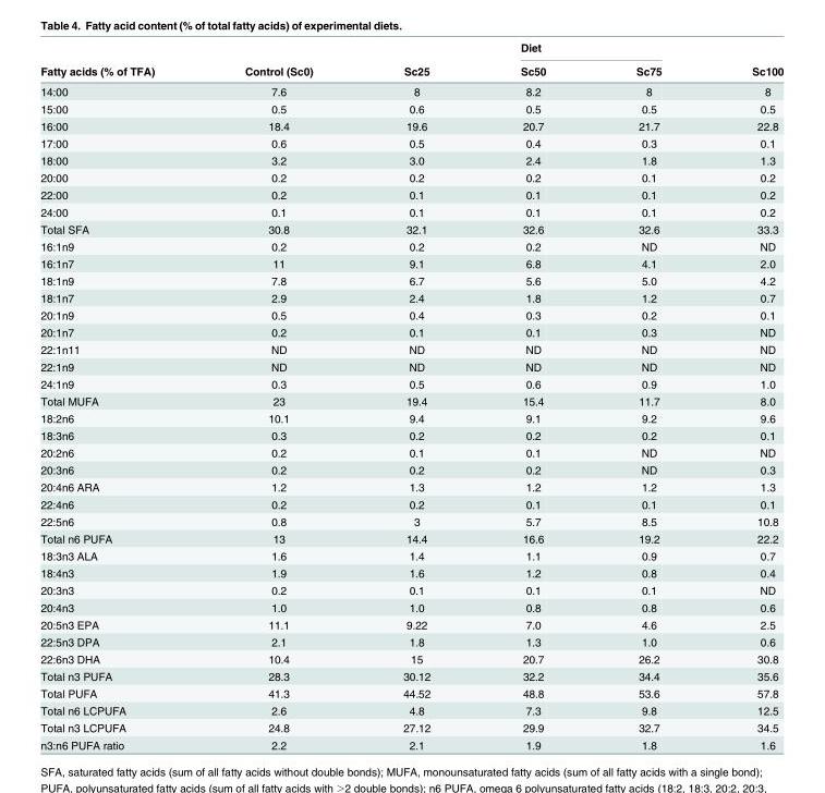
<table><thead><tr><td rowspan="2">Fatty acids (% of TFA)</td><td rowspan="2">Control (Sc0)</td><td rowspan="2">Sc25</td><td colspan="2">Diet</td><td rowspan="2">Sc100</td></tr><tr><td>Sc50</td><td>Sc75</td></tr></thead><tbody><tr><td>14:00</td><td>7.6</td><td>8</td><td>8.2</td><td>8</td><td>8</td></tr><tr><td>15:00</td><td>0.5</td><td>0.6</td><td>0.5</td><td>0.5</td><td>0.5</td></tr><tr><td>16:00</td><td>18.4</td><td>19.6</td><td>20.7</td><td>21.7</td><td>22.8</td></tr><tr><td>17:00</td><td>0.6</td><td>0.5</td><td>0.4</td><td>0.3</td><td>0.1</td></tr><tr><td>18:00</td><td>3.2</td><td>3.0</td><td>2.4</td><td>1.8</td><td>1.3</td></tr><tr><td>20:00</td><td>0.2</td><td>0.2</td><td>0.2</td><td>0.1</td><td>0.2</td></tr><tr><td>22:00</td><td>0.2</td><td>0.1</td><td>0.1</td><td>0.1</td><td>0.2</td></tr><tr><td>24:00</td><td>0.1</td><td>0.1</td><td>0.1</td><td>0.1</td><td>0.2</td></tr><tr><td>Total SFA</td><td>30.8</td><td>32.1</td><td>32.6</td><td>32.6</td><td>33.3</td></tr><tr><td>16:1n9</td><td>0.2</td><td>0.2</td><td>0.2</td><td>ND</td><td>ND</td></tr><tr><td>16:1n7</td><td>11</td><td>9.1</td><td>6.8</td><td>4.1</td><td>2.0</td></tr><tr><td>18:1n9</td><td>7.8</td><td>6.7</td><td>5.6</td><td>5.0</td><td>4.2</td></tr><tr><td>18:1n7</td><td>2.9</td><td>2.4</td><td>1.8</td><td>1.2</td><td>0.7</td></tr><tr><td>20:1n9</td><td>0.5</td><td>0.4</td><td>0.3</td><td>0.2</td><td>0.1</td></tr><tr><td>20:1n7</td><td>0.2</td><td>0.1</td><td>0.1</td><td>0.3</td><td>ND</td></tr><tr><td>22:1n11</td><td>ND</td><td>ND</td><td>ND</td><td>ND</td><td>ND</td></tr><tr><td>22:1n9</td><td>ND</td><td>ND</td><td>ND</td><td>ND</td><td>ND</td></tr><tr><td>24:1n9</td><td>0.3</td><td>0.5</td><td>0.6</td><td>0.9</td><td>1.0</td></tr><tr><td>Total MUFA</td><td>23</td><td>19.4</td><td>15.4</td><td>11.7</td><td>8.0</td></tr><tr><td>18:2n6</td><td>10.1</td><td>9.4</td><td>9.1</td><td>9.2</td><td>9.6</td></tr><tr><td>18:3n6</td><td>0.3</td><td>0.2</td><td>0.2</td><td>0.2</td><td>0.1</td></tr><tr><td>20:2n6</td><td>0.2</td><td>0.1</td><td>0.1</td><td>ND</td><td>ND</td></tr><tr><td>20:3n6</td><td>0.2</td><td>0.2</td><td>0.2</td><td>ND</td><td>0.3</td></tr><tr><td>20:4n6 ARA</td><td>1.2</td><td>1.3</td><td>1.2</td><td>1.2</td><td>1.3</td></tr><tr><td>22:4n6</td><td>0.2</td><td>0.2</td><td>0.1</td><td>0.1</td><td>0.1</td></tr><tr><td>22:5n6</td><td>0.8</td><td>3</td><td>5.7</td><td>8.5</td><td>10.8</td></tr><tr><td>Total n6 PUFA</td><td>13</td><td>14.4</td><td>16.6</td><td>19.2</td><td>22.2</td></tr><tr><td>18:3n3 ALA</td><td>1.6</td><td>1.4</td><td>1.1</td><td>0.9</td><td>0.7</td></tr><tr><td>18:4n3</td><td>1.9</td><td>1.6</td><td>1.2</td><td>0.8</td><td>0.4</td></tr><tr><td>20:3n3</td><td>0.2</td><td>0.1</td><td>0.1</td><td>0.1</td><td>ND</td></tr><tr><td>20:4n3</td><td>1.0</td><td>1.0</td><td>0.8</td><td>0.8</td><td>0.6</td></tr><tr><td>20:5n3 EPA</td><td>11.1</td><td>9.22</td><td>7.0</td><td>4.6</td><td>2.5</td></tr><tr><td>22:5n3 DPA</td><td>2.1</td><td>1.8</td><td>1.3</td><td>1.0</td><td>0.6</td></tr><tr><td>22:6n3 DHA</td><td>10.4</td><td>15</td><td>20.7</td><td>26.2</td><td>30.8</td></tr><tr><td>Total n3 PUFA</td><td>28.3</td><td>30.12</td><td>32.2</td><td>34.4</td><td>35.6</td></tr><tr><td>Total PUFA</td><td>41.3</td><td>44.52</td><td>48.8</td><td>53.6</td><td>57.8</td></tr><tr><td>Total n6 LCPUFA</td><td>2.6</td><td>4.8</td><td>7.3</td><td>9.8</td><td>12.5</td></tr><tr><td>Total n3 LCPUFA</td><td>24.8</td><td>27.12</td><td>29.9</td><td>32.7</td><td>34.5</td></tr><tr><td>n3:n6 PUFA ratio</td><td>2.2</td><td>2.1</td><td>1.9</td><td>1.8</td><td>1.6</td></tr></tbody></table>